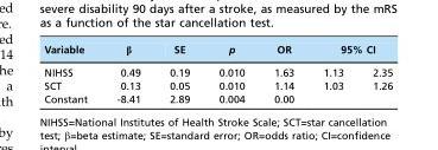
<table><thead><tr><td rowspan="2">Variable NIHSS</td><td rowspan="2">β 0.49</td><td rowspan="2">SE 0.19</td><td rowspan="2">p 0.010</td><td rowspan="2">OR 1.63</td><td colspan="2">95% CI</td></tr><tr><td>1.13</td><td>2.35</td></tr></thead><tbody><tr><td>SCT</td><td>0.13</td><td>0.05</td><td>0.010</td><td>1.14</td><td>1.03</td><td>1.26</td></tr><tr><td>Constant</td><td>-8.41</td><td>2.89</td><td>0.004</td><td>0.00</td><td></td><td></td></tr></tbody></table>